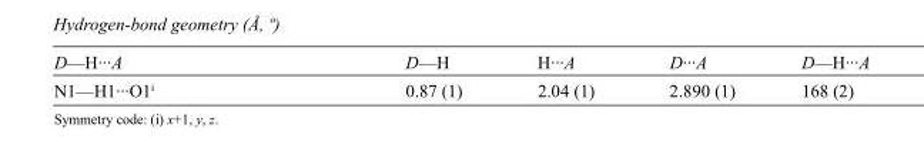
<table><tbody><tr><td>D—H···A</td><td>D—H</td><td>H···A</td><td>D···A</td><td>D—H···A</td></tr><tr><td>N1—H1···O1<sup>i</sup></td><td>0.87 (1)</td><td>2.04 (1)</td><td>2.890 (1)</td><td>168 (2)</td></tr></tbody></table>